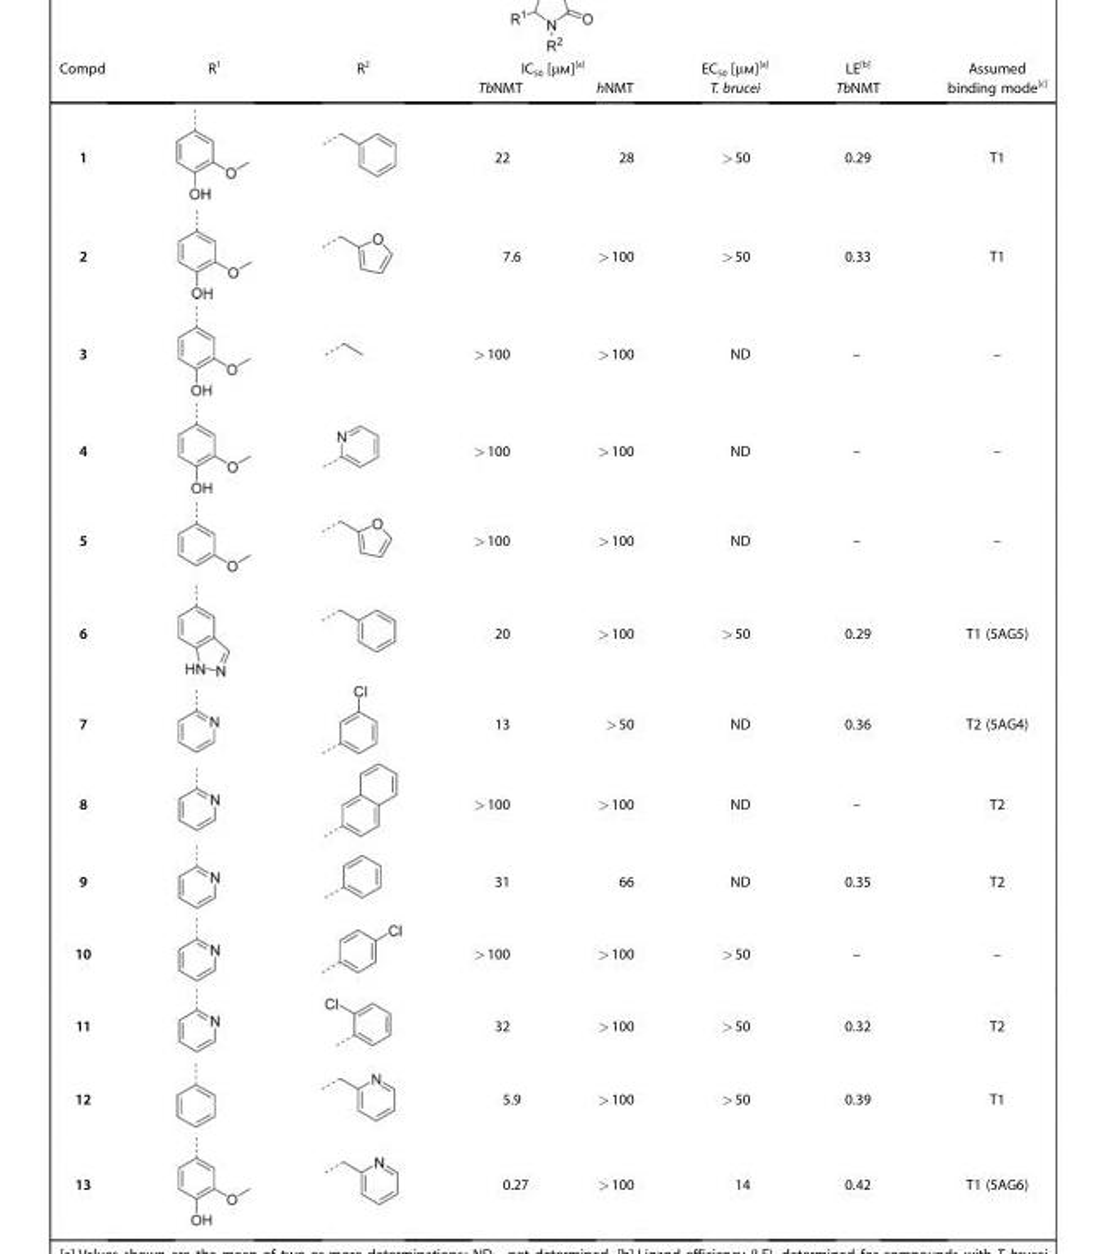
<table><thead><tr><td rowspan="2">Compd</td><td rowspan="2">R<sup>1</sup></td><td rowspan="2">R<sup>2</sup></td><td colspan="2">IC<sub>50</sub> [μm]<sup>[a]</sup></td><td rowspan="2">EC<sub>50</sub> [μm]<sup>[a]</sup> T. brucei</td><td rowspan="2">LE<sup>[b]</sup> TbNMT</td><td rowspan="2">Assumed binding mode<sup>[c]</sup></td></tr><tr><td>TbNMT</td><td>hNMT</td></tr></thead><tbody><tr><td>1</td><td></td><td></td><td>22</td><td>28</td><td>&gt;50</td><td>0.29</td><td>T1</td></tr><tr><td>2</td><td></td><td></td><td>7.6</td><td>&gt;100</td><td>&gt;50</td><td>0.33</td><td>T1</td></tr><tr><td>3</td><td></td><td></td><td>&gt;100</td><td>&gt;100</td><td>ND</td><td>–</td><td>–</td></tr><tr><td>4</td><td></td><td></td><td>&gt;100</td><td>&gt;100</td><td>ND</td><td>–</td><td>–</td></tr><tr><td>5</td><td></td><td></td><td>&gt;100</td><td>&gt;100</td><td>ND</td><td>–</td><td>–</td></tr><tr><td>6</td><td></td><td></td><td>20</td><td>&gt;100</td><td>&gt;50</td><td>0.29</td><td>T1 (5AG5)</td></tr><tr><td>7</td><td></td><td></td><td>13</td><td>&gt;50</td><td>ND</td><td>0.36</td><td>T2 (5AG4)</td></tr><tr><td>8</td><td></td><td></td><td>&gt;100</td><td>&gt;100</td><td>ND</td><td>–</td><td>T2</td></tr><tr><td>9</td><td></td><td></td><td>31</td><td>66</td><td>ND</td><td>0.35</td><td>T2</td></tr><tr><td>10</td><td></td><td></td><td>&gt;100</td><td>&gt;100</td><td>&gt;50</td><td>–</td><td>–</td></tr><tr><td>11</td><td></td><td></td><td>32</td><td>&gt;100</td><td>&gt;50</td><td>0.32</td><td>T2</td></tr><tr><td>12</td><td></td><td></td><td>5.9</td><td>&gt;100</td><td>&gt;50</td><td>0.39</td><td>T1</td></tr><tr><td>13</td><td></td><td></td><td>0.27</td><td>&gt;100</td><td>14</td><td>0.42</td><td>T1 (5AG6)</td></tr></tbody></table>